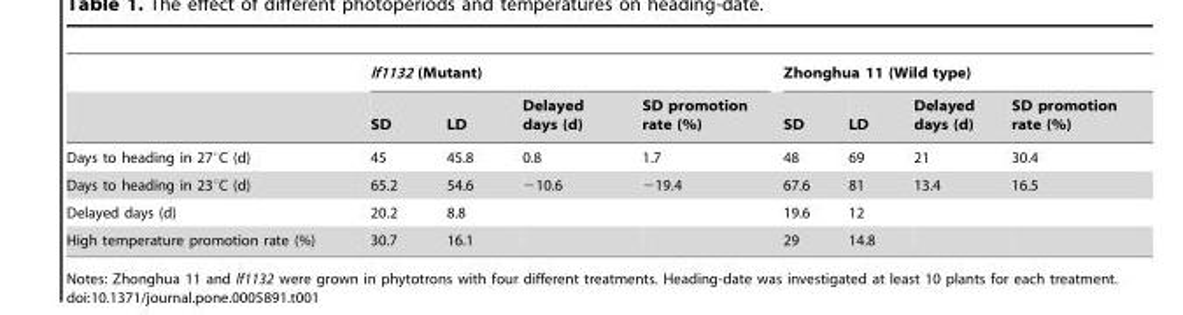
<table><thead><tr><td rowspan="2"></td><td colspan="4">lf1132 (Mutant)</td><td colspan="4">Zhonghua 11 (Wild type)</td></tr><tr><td>SD</td><td>LD</td><td>Delayed days (d)</td><td>SD promotion rate (%)</td><td>SD</td><td>LD</td><td>Delayed days (d)</td><td>SD promotion rate (%)</td></tr></thead><tbody><tr><td>Days to heading in 27°C (d)</td><td>45</td><td>45.8</td><td>0.8</td><td>1.7</td><td>48</td><td>69</td><td>21</td><td>30.4</td></tr><tr><td>Days to heading in 23°C (d)</td><td>65.2</td><td>54.6</td><td>−10.6</td><td>−19.4</td><td>67.6</td><td>81</td><td>13.4</td><td>16.5</td></tr><tr><td>Delayed days (d)</td><td>20.2</td><td>8.8</td><td></td><td></td><td>19.6</td><td>12</td><td></td><td></td></tr><tr><td>High temperature promotion rate (%)</td><td>30.7</td><td>16.1</td><td></td><td></td><td>29</td><td>14.8</td><td></td><td></td></tr></tbody></table>